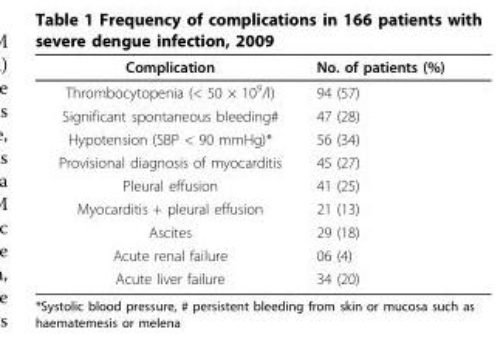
<table><thead><tr><td>Complication</td><td>No. of patients (%)</td></tr></thead><tbody><tr><td>Thrombocytopenia (&lt; 50 × 10<sup>9</sup>/l)</td><td>94 (57)</td></tr><tr><td>Significant spontaneous bleeding#</td><td>47 (28)</td></tr><tr><td>Hypotension (SBP &lt; 90 mmHg)*</td><td>56 (34)</td></tr><tr><td>Provisional diagnosis of myocarditis</td><td>45 (27)</td></tr><tr><td>Pleural effusion</td><td>41 (25)</td></tr><tr><td>Myocarditis + pleural effusion</td><td>21 (13)</td></tr><tr><td>Ascites</td><td>29 (18)</td></tr><tr><td>Acute renal failure</td><td>06 (4)</td></tr><tr><td>Acute liver failure</td><td>34 (20)</td></tr></tbody></table>